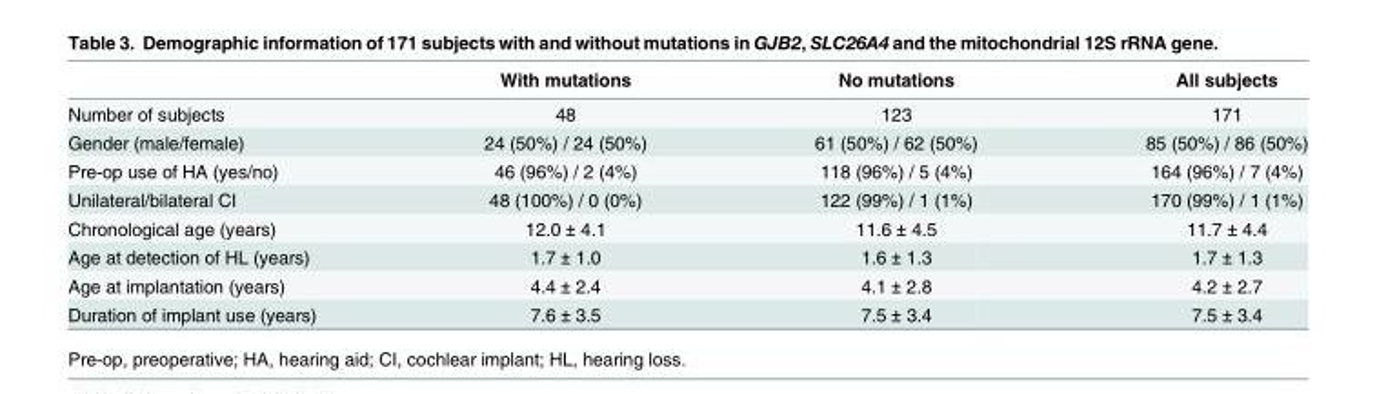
<table><thead><tr><td></td><td>With mutations</td><td>No mutations</td><td>All subjects</td></tr></thead><tbody><tr><td>Number of subjects</td><td>48</td><td>123</td><td>171</td></tr><tr><td>Gender (male/female)</td><td>24 (50%) / 24 (50%)</td><td>61 (50%) / 62 (50%)</td><td>85 (50%) / 86 (50%)</td></tr><tr><td>Pre-op use of HA (yes/no)</td><td>46 (96%) / 2 (4%)</td><td>118 (96%) / 5 (4%)</td><td>164 (96%) / 7 (4%)</td></tr><tr><td>Unilateral/bilateral CI</td><td>48 (100%) / 0 (0%)</td><td>122 (99%) / 1 (1%)</td><td>170 (99%) / 1 (1%)</td></tr><tr><td>Chronological age (years)</td><td>12.0 ± 4.1</td><td>11.6 ± 4.5</td><td>11.7 ± 4.4</td></tr><tr><td>Age at detection of HL (years)</td><td>1.7 ± 1.0</td><td>1.6 ± 1.3</td><td>1.7 ± 1.3</td></tr><tr><td>Age at implantation (years)</td><td>4.4 ± 2.4</td><td>4.1 ± 2.8</td><td>4.2 ± 2.7</td></tr><tr><td>Duration of implant use (years)</td><td>7.6 ± 3.5</td><td>7.5 ± 3.4</td><td>7.5 ± 3.4</td></tr></tbody></table>